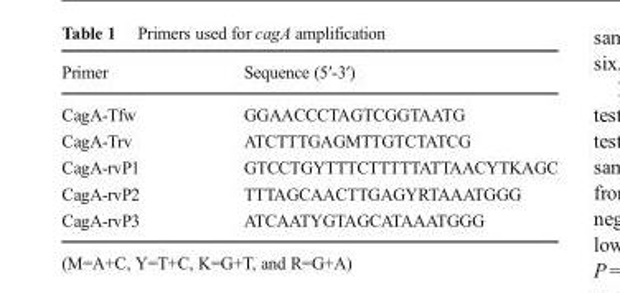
<table><thead><tr><td>Primer</td><td>Sequence (5′-3′)</td></tr></thead><tbody><tr><td>CagA-Tfw</td><td>GGAACCCTAGTCGGTAATG</td></tr><tr><td>CagA-Trv</td><td>ATCTTTGAGMTTGTCTATCG</td></tr><tr><td>CagA-rvP1</td><td>GTCCTGYTTTCTTTTTATTAACYTKAGC</td></tr><tr><td>CagA-rvP2</td><td>TTTAGCAACTTGAGYRTAAATGGG</td></tr><tr><td>CagA-rvP3</td><td>ATCAATYGTAGCATAAATGGG</td></tr></tbody></table>